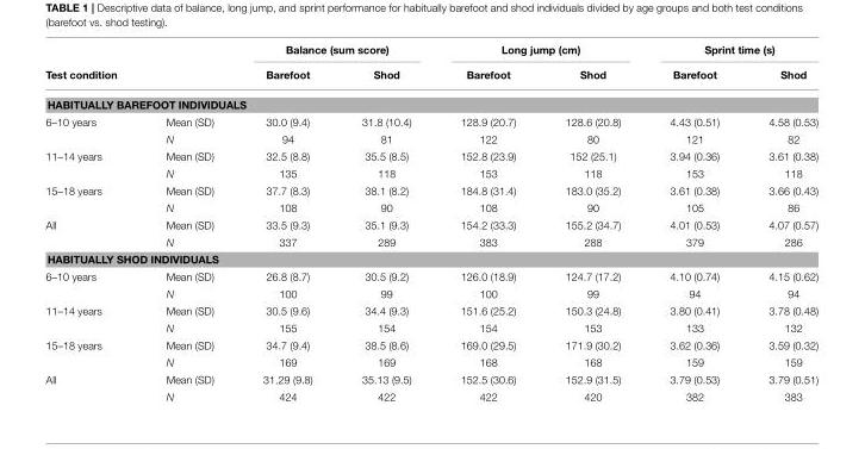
<table><thead><tr><td rowspan="2">Test condition</td><td rowspan="2"></td><td colspan="2">Balance (sum score)</td><td colspan="2">Long jump (cm)</td><td colspan="2">Sprint time (s)</td></tr><tr><td>Barefoot</td><td>Shod</td><td>Barefoot</td><td>Shod</td><td>Barefoot</td><td>Shod</td></tr></thead><tbody><tr><td colspan="8">HABITUALLY BAREFOOT INDIVIDUALS</td></tr><tr><td rowspan="2">6–10 years</td><td>Mean (SD)</td><td>30.0 (9.4)</td><td>31.8 (10.4)</td><td>128.9 (20.7)</td><td>128.6 (20.8)</td><td>4.43 (0.51)</td><td>4.58 (0.53)</td></tr><tr><td>N</td><td>94</td><td>81</td><td>122</td><td>80</td><td>121</td><td>82</td></tr><tr><td rowspan="2">11–14 years</td><td>Mean (SD)</td><td>32.5 (8.8)</td><td>35.5 (8.5)</td><td>152.8 (23.9)</td><td>152 (25.1)</td><td>3.94 (0.36)</td><td>3.61 (0.38)</td></tr><tr><td>N</td><td>135</td><td>118</td><td>153</td><td>118</td><td>153</td><td>118</td></tr><tr><td rowspan="2">15–18 years</td><td>Mean (SD)</td><td>37.7 (8.3)</td><td>38.1 (8.2)</td><td>184.8 (31.4)</td><td>183.0 (35.2)</td><td>3.61 (0.38)</td><td>3.66 (0.43)</td></tr><tr><td>N</td><td>108</td><td>90</td><td>108</td><td>90</td><td>105</td><td>86</td></tr><tr><td rowspan="2">All</td><td>Mean (SD)</td><td>33.5 (9.3)</td><td>35.1 (9.3)</td><td>154.2 (33.3)</td><td>155.2 (34.7)</td><td>4.01 (0.53)</td><td>4.07 (0.57)</td></tr><tr><td>N</td><td>337</td><td>289</td><td>383</td><td>288</td><td>379</td><td>286</td></tr><tr><td colspan="8">HABITUALLY SHOD INDIVIDUALS</td></tr><tr><td rowspan="2">6–10 years</td><td>Mean (SD)</td><td>26.8 (8.7)</td><td>30.5 (9.2)</td><td>126.0 (18.9)</td><td>124.7 (17.2)</td><td>4.10 (0.74)</td><td>4.15 (0.62)</td></tr><tr><td>N</td><td>100</td><td>99</td><td>100</td><td>99</td><td>94</td><td>94</td></tr><tr><td rowspan="2">11–14 years</td><td>Mean (SD)</td><td>30.5 (9.6)</td><td>34.4 (9.3)</td><td>151.6 (25.2)</td><td>150.3 (24.8)</td><td>3.80 (0.41)</td><td>3.78 (0.48)</td></tr><tr><td>N</td><td>155</td><td>154</td><td>154</td><td>153</td><td>133</td><td>132</td></tr><tr><td rowspan="2">15–18 years</td><td>Mean (SD)</td><td>34.7 (9.4)</td><td>38.5 (8.6)</td><td>169.0 (29.5)</td><td>171.9 (30.2)</td><td>3.62 (0.36)</td><td>3.59 (0.32)</td></tr><tr><td>N</td><td>169</td><td>169</td><td>168</td><td>168</td><td>159</td><td>159</td></tr><tr><td rowspan="2">All</td><td>Mean (SD)</td><td>31.29 (9.8)</td><td>35.13 (9.5)</td><td>152.5 (30.6)</td><td>152.9 (31.5)</td><td>3.79 (0.53)</td><td>3.79 (0.51)</td></tr><tr><td>N</td><td>424</td><td>422</td><td>422</td><td>420</td><td>382</td><td>383</td></tr></tbody></table>